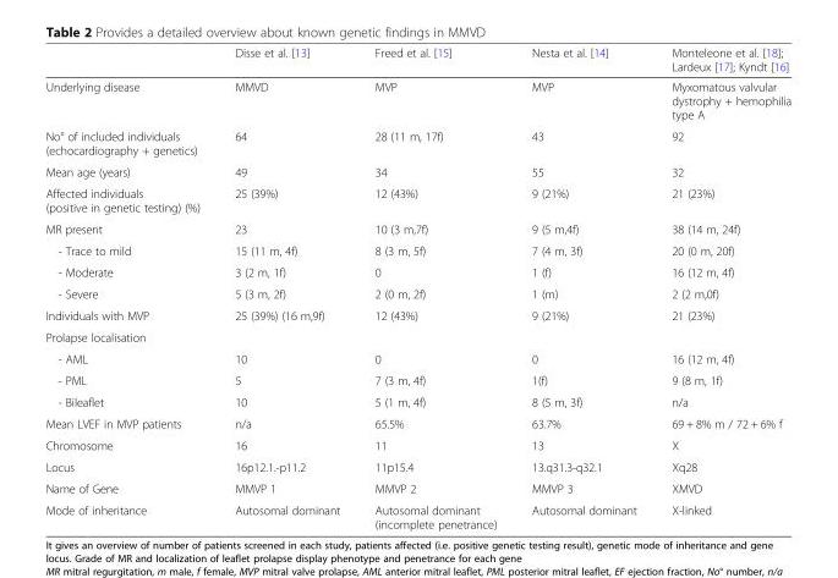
<table><thead><tr><td></td><td>Disse et al. [13]</td><td>Freed et al. [15]</td><td>Nesta et al. [14]</td><td>Monteleone et al. [18]; Lardeux [17]; Kyndt [16]</td></tr></thead><tbody><tr><td>Underlying disease</td><td>MMVD</td><td>MVP</td><td>MVP</td><td>Myxomatous valvular dystrophy + hemophilia type A</td></tr><tr><td>No° of included individuals (echocardiography + genetics)</td><td>64</td><td>28 (11 m, 17f)</td><td>43</td><td>92</td></tr><tr><td>Mean age (years)</td><td>49</td><td>34</td><td>55</td><td>32</td></tr><tr><td>Affected individuals (positive in genetic testing) (%)</td><td>25 (39%)</td><td>12 (43%)</td><td>9 (21%)</td><td>21 (23%)</td></tr><tr><td>MR present</td><td>23</td><td>10 (3 m,7f)</td><td>9 (5 m,4f)</td><td>38 (14 m, 24f)</td></tr><tr><td>- Trace to mild</td><td>15 (11 m, 4f)</td><td>8 (3 m, 5f)</td><td>7 (4 m, 3f)</td><td>20 (0 m, 20f)</td></tr><tr><td>- Moderate</td><td>3 (2 m, 1f)</td><td>0</td><td>1 (f)</td><td>16 (12 m, 4f)</td></tr><tr><td>- Severe</td><td>5 (3 m, 2f)</td><td>2 (0 m, 2f)</td><td>1 (m)</td><td>2 (2 m,0f)</td></tr><tr><td>Individuals with MVP</td><td>25 (39%) (16 m,9f)</td><td>12 (43%)</td><td>9 (21%)</td><td>21 (23%)</td></tr><tr><td colspan="5">Prolapse localisation</td></tr><tr><td>- AML</td><td>10</td><td>0</td><td>0</td><td>16 (12 m, 4f)</td></tr><tr><td>- PML</td><td>5</td><td>7 (3 m, 4f)</td><td>1(f)</td><td>9 (8 m, 1f)</td></tr><tr><td>- Bileaflet</td><td>10</td><td>5 (1 m, 4f)</td><td>8 (5 m, 3f)</td><td>n/a</td></tr><tr><td>Mean LVEF in MVP patients</td><td>n/a</td><td>65.5%</td><td>63.7%</td><td>69 + 8% m / 72 + 6% f</td></tr><tr><td>Chromosome</td><td>16</td><td>11</td><td>13</td><td>X</td></tr><tr><td>Locus</td><td>16p12.1.-p11.2</td><td>11p15.4</td><td>13.q31.3-q32.1</td><td>Xq28</td></tr><tr><td>Name of Gene</td><td>MMVP 1</td><td>MMVP 2</td><td>MMVP 3</td><td>XMVD</td></tr><tr><td>Mode of inheritance</td><td>Autosomal dominant</td><td>Autosomal dominant (incomplete penetrance)</td><td>Autosomal dominant</td><td>X-linked</td></tr></tbody></table>